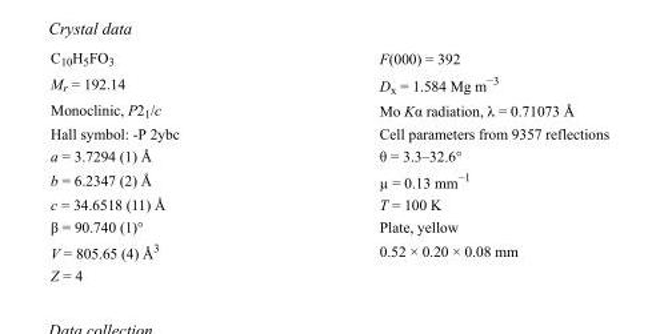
<table><tbody><tr><td>C<sub>10</sub>H<sub>5</sub>FO<sub>3</sub></td><td>F(000) = 392</td></tr><tr><td>M<sub>r</sub> = 192.14</td><td>D<sub>x</sub> = 1.584 Mg m<sup>−3</sup></td></tr><tr><td>Monoclinic, P2<sub>1</sub>/c</td><td>Mo Kα radiation, λ = 0.71073 Å</td></tr><tr><td>Hall symbol: -P 2ybc</td><td>Cell parameters from 9357 reflections</td></tr><tr><td>a = 3.7294 (1) Å</td><td>θ = 3.3–32.6°</td></tr><tr><td>b = 6.2347 (2) Å</td><td>µ = 0.13 mm<sup>−1</sup></td></tr><tr><td>c = 34.6518 (11) Å</td><td>T = 100 K</td></tr><tr><td>β = 90.740 (1)°</td><td>Plate, yellow</td></tr><tr><td>V = 805.65 (4) Å<sup>3</sup></td><td>0.52 × 0.20 × 0.08 mm</td></tr><tr><td>Z = 4</td><td></td></tr></tbody></table>